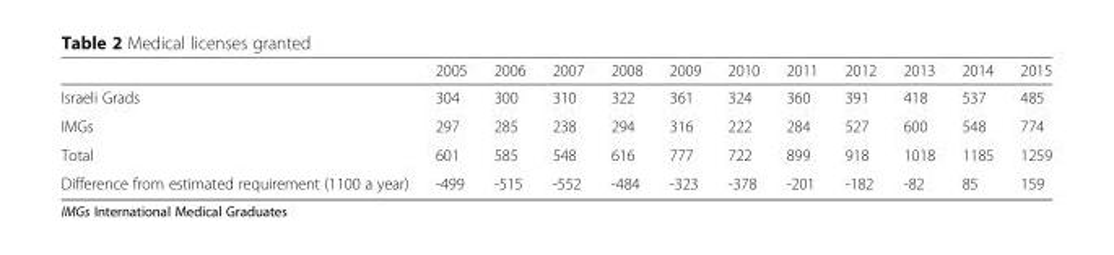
<table><thead><tr><td></td><td>2005</td><td>2006</td><td>2007</td><td>2008</td><td>2009</td><td>2010</td><td>2011</td><td>2012</td><td>2013</td><td>2014</td><td>2015</td></tr></thead><tbody><tr><td>Israeli Grads</td><td>304</td><td>300</td><td>310</td><td>322</td><td>361</td><td>324</td><td>360</td><td>391</td><td>418</td><td>537</td><td>485</td></tr><tr><td>IMGs</td><td>297</td><td>285</td><td>238</td><td>294</td><td>316</td><td>222</td><td>284</td><td>527</td><td>600</td><td>548</td><td>774</td></tr><tr><td>Total</td><td>601</td><td>585</td><td>548</td><td>616</td><td>777</td><td>722</td><td>899</td><td>918</td><td>1018</td><td>1185</td><td>1259</td></tr><tr><td>Difference from estimated requirement (1100 a year)</td><td>-499</td><td>-515</td><td>-552</td><td>-484</td><td>-323</td><td>-378</td><td>-201</td><td>-182</td><td>-82</td><td>85</td><td>159</td></tr></tbody></table>